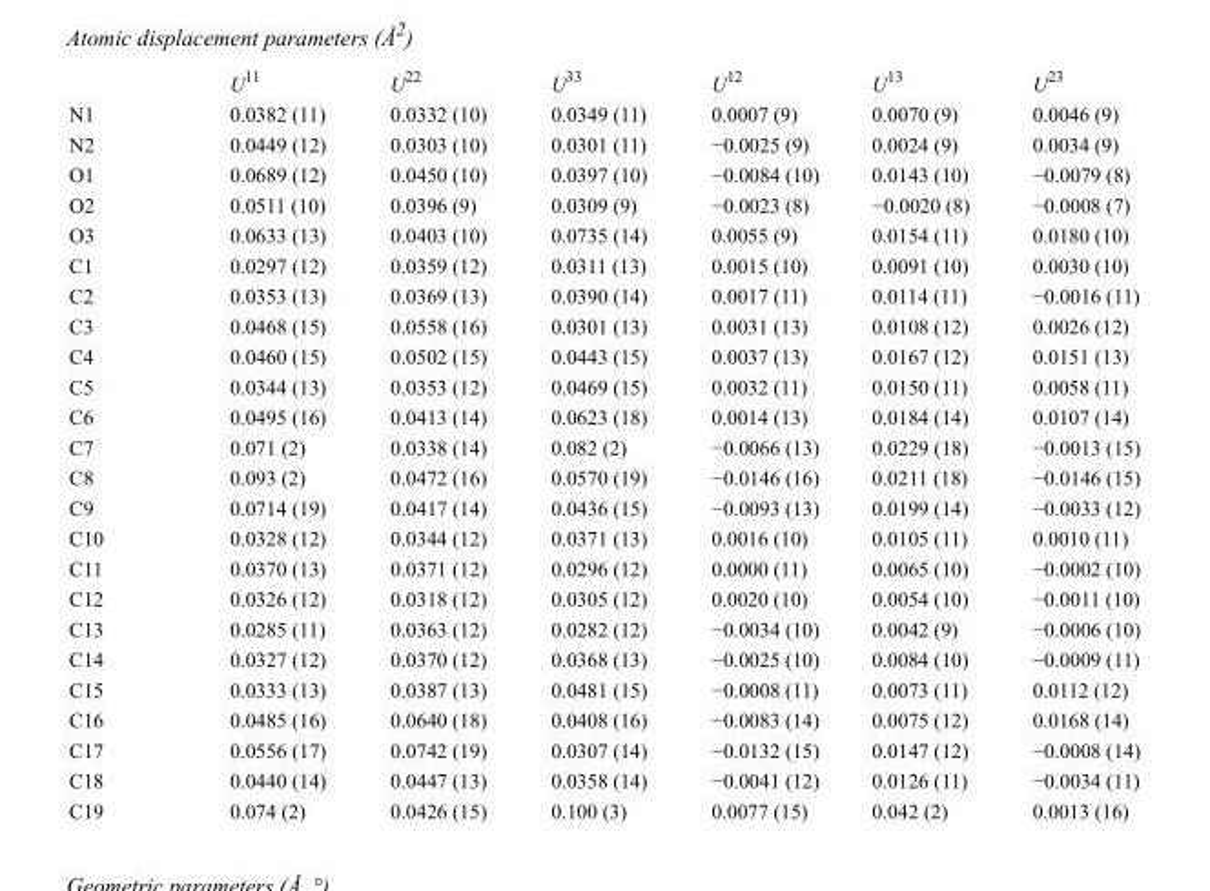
<table><thead><tr><td></td><td>U<sup>11</sup></td><td>U<sup>22</sup></td><td>U<sup>33</sup></td><td>U<sup>12</sup></td><td>U<sup>13</sup></td><td>U<sup>23</sup></td></tr></thead><tbody><tr><td>N1</td><td>0.0382 (11)</td><td>0.0332 (10)</td><td>0.0349 (11)</td><td>0.0007 (9)</td><td>0.0070 (9)</td><td>0.0046 (9)</td></tr><tr><td>N2</td><td>0.0449 (12)</td><td>0.0303 (10)</td><td>0.0301 (11)</td><td>−0.0025 (9)</td><td>0.0024 (9)</td><td>0.0034 (9)</td></tr><tr><td>O1</td><td>0.0689 (12)</td><td>0.0450 (10)</td><td>0.0397 (10)</td><td>−0.0084 (10)</td><td>0.0143 (10)</td><td>−0.0079 (8)</td></tr><tr><td>O2</td><td>0.0511 (10)</td><td>0.0396 (9)</td><td>0.0309 (9)</td><td>−0.0023 (8)</td><td>−0.0020 (8)</td><td>−0.0008 (7)</td></tr><tr><td>O3</td><td>0.0633 (13)</td><td>0.0403 (10)</td><td>0.0735 (14)</td><td>0.0055 (9)</td><td>0.0154 (11)</td><td>0.0180 (10)</td></tr><tr><td>C1</td><td>0.0297 (12)</td><td>0.0359 (12)</td><td>0.0311 (13)</td><td>0.0015 (10)</td><td>0.0091 (10)</td><td>0.0030 (10)</td></tr><tr><td>C2</td><td>0.0353 (13)</td><td>0.0369 (13)</td><td>0.0390 (14)</td><td>0.0017 (11)</td><td>0.0114 (11)</td><td>−0.0016 (11)</td></tr><tr><td>C3</td><td>0.0468 (15)</td><td>0.0558 (16)</td><td>0.0301 (13)</td><td>0.0031 (13)</td><td>0.0108 (12)</td><td>0.0026 (12)</td></tr><tr><td>C4</td><td>0.0460 (15)</td><td>0.0502 (15)</td><td>0.0443 (15)</td><td>0.0037 (13)</td><td>0.0167 (12)</td><td>0.0151 (13)</td></tr><tr><td>C5</td><td>0.0344 (13)</td><td>0.0353 (12)</td><td>0.0469 (15)</td><td>0.0032 (11)</td><td>0.0150 (11)</td><td>0.0058 (11)</td></tr><tr><td>C6</td><td>0.0495 (16)</td><td>0.0413 (14)</td><td>0.0623 (18)</td><td>0.0014 (13)</td><td>0.0184 (14)</td><td>0.0107 (14)</td></tr><tr><td>C7</td><td>0.071 (2)</td><td>0.0338 (14)</td><td>0.082 (2)</td><td>−0.0066 (13)</td><td>0.0229 (18)</td><td>−0.0013 (15)</td></tr><tr><td>C8</td><td>0.093 (2)</td><td>0.0472 (16)</td><td>0.0570 (19)</td><td>−0.0146 (16)</td><td>0.0211 (18)</td><td>−0.0146 (15)</td></tr><tr><td>C9</td><td>0.0714 (19)</td><td>0.0417 (14)</td><td>0.0436 (15)</td><td>−0.0093 (13)</td><td>0.0199 (14)</td><td>−0.0033 (12)</td></tr><tr><td>C10</td><td>0.0328 (12)</td><td>0.0344 (12)</td><td>0.0371 (13)</td><td>0.0016 (10)</td><td>0.0105 (11)</td><td>0.0010 (11)</td></tr><tr><td>C11</td><td>0.0370 (13)</td><td>0.0371 (12)</td><td>0.0296 (12)</td><td>0.0000 (11)</td><td>0.0065 (10)</td><td>−0.0002 (10)</td></tr><tr><td>C12</td><td>0.0326 (12)</td><td>0.0318 (12)</td><td>0.0305 (12)</td><td>0.0020 (10)</td><td>0.0054 (10)</td><td>−0.0011 (10)</td></tr><tr><td>C13</td><td>0.0285 (11)</td><td>0.0363 (12)</td><td>0.0282 (12)</td><td>−0.0034 (10)</td><td>0.0042 (9)</td><td>−0.0006 (10)</td></tr><tr><td>C14</td><td>0.0327 (12)</td><td>0.0370 (12)</td><td>0.0368 (13)</td><td>−0.0025 (10)</td><td>0.0084 (10)</td><td>−0.0009 (11)</td></tr><tr><td>C15</td><td>0.0333 (13)</td><td>0.0387 (13)</td><td>0.0481 (15)</td><td>−0.0008 (11)</td><td>0.0073 (11)</td><td>0.0112 (12)</td></tr><tr><td>C16</td><td>0.0485 (16)</td><td>0.0640 (18)</td><td>0.0408 (16)</td><td>−0.0083 (14)</td><td>0.0075 (12)</td><td>0.0168 (14)</td></tr><tr><td>C17</td><td>0.0556 (17)</td><td>0.0742 (19)</td><td>0.0307 (14)</td><td>−0.0132 (15)</td><td>0.0147 (12)</td><td>−0.0008 (14)</td></tr><tr><td>C18</td><td>0.0440 (14)</td><td>0.0447 (13)</td><td>0.0358 (14)</td><td>−0.0041 (12)</td><td>0.0126 (11)</td><td>−0.0034 (11)</td></tr><tr><td>C19</td><td>0.074 (2)</td><td>0.0426 (15)</td><td>0.100 (3)</td><td>0.0077 (15)</td><td>0.042 (2)</td><td>0.0013 (16)</td></tr></tbody></table>